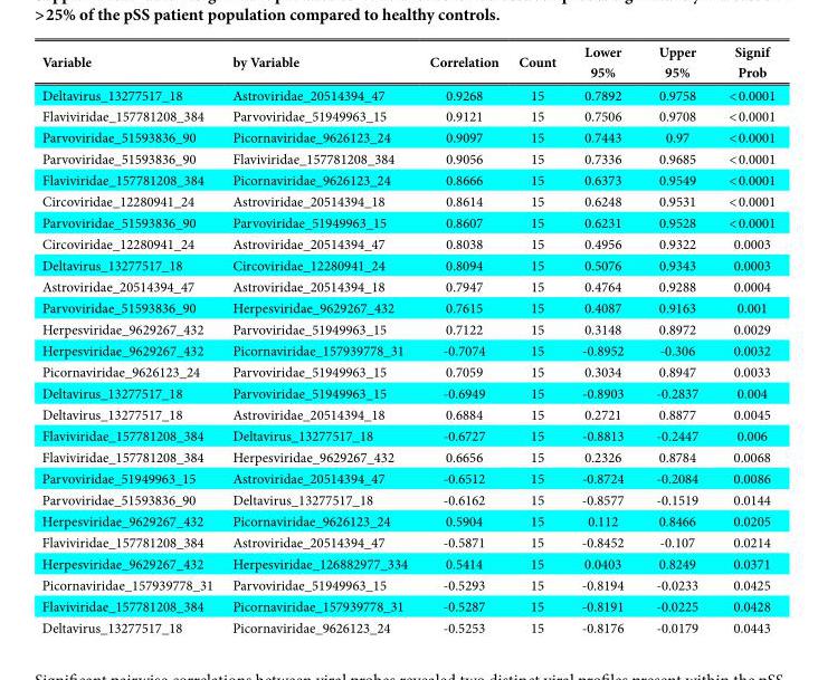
<table><thead><tr><td>Variable</td><td>by Variable</td><td>Correlation</td><td>Count</td><td>Lower 95%</td><td>Upper 95%</td><td>Signif Prob</td></tr></thead><tbody><tr><td>Deltavirus_13277517_18</td><td>Astroviridae_20514394_47</td><td>0.9268</td><td>15</td><td>0.7892</td><td>0.9758</td><td>&lt; 0.0001</td></tr><tr><td>Flaviviridae_157781208_384</td><td>Parvoviridae_51949963_15</td><td>0.9121</td><td>15</td><td>0.7506</td><td>0.9708</td><td>&lt; 0.0001</td></tr><tr><td>Parvoviridae_51593836_90</td><td>Picornaviridae_9626123_24</td><td>0.9097</td><td>15</td><td>0.7443</td><td>0.97</td><td>&lt; 0.0001</td></tr><tr><td>Parvoviridae_51593836_90</td><td>Flaviviridae_157781208_384</td><td>0.9056</td><td>15</td><td>0.7336</td><td>0.9685</td><td>&lt; 0.0001</td></tr><tr><td>Flaviviridae_157781208_384</td><td>Picornaviridae_9626123_24</td><td>0.8666</td><td>15</td><td>0.6373</td><td>0.9549</td><td>&lt; 0.0001</td></tr><tr><td>Circoviridae_12280941_24</td><td>Astroviridae_20514394_18</td><td>0.8614</td><td>15</td><td>0.6248</td><td>0.9531</td><td>&lt; 0.0001</td></tr><tr><td>Parvoviridae_51593836_90</td><td>Parvoviridae_51949963_15</td><td>0.8607</td><td>15</td><td>0.6231</td><td>0.9528</td><td>&lt; 0.0001</td></tr><tr><td>Circoviridae_12280941_24</td><td>Astroviridae_20514394_47</td><td>0.8038</td><td>15</td><td>0.4956</td><td>0.9322</td><td>0.0003</td></tr><tr><td>Deltavirus_13277517_18</td><td>Circoviridae_12280941_24</td><td>0.8094</td><td>15</td><td>0.5076</td><td>0.9343</td><td>0.0003</td></tr><tr><td>Astroviridae_20514394_47</td><td>Astroviridae_20514394_18</td><td>0.7947</td><td>15</td><td>0.4764</td><td>0.9288</td><td>0.0004</td></tr><tr><td>Parvoviridae_51593836_90</td><td>Herpesviridae_9629267_432</td><td>0.7615</td><td>15</td><td>0.4087</td><td>0.9163</td><td>0.001</td></tr><tr><td>Herpesviridae_9629267_432</td><td>Parvoviridae_51949963_15</td><td>0.7122</td><td>15</td><td>0.3148</td><td>0.8972</td><td>0.0029</td></tr><tr><td>Herpesviridae_9629267_432</td><td>Picornaviridae_157939778_31</td><td>‐0.7074</td><td>15</td><td>-0.8952</td><td>‐0.306</td><td>0.0032</td></tr><tr><td>Picornaviridae_9626123_24</td><td>Parvoviridae_51949963_15</td><td>0.7059</td><td>15</td><td>0.3034</td><td>0.8947</td><td>0.0033</td></tr><tr><td>Deltavirus_13277517_18</td><td>Parvoviridae_51949963_15</td><td>-0.6949</td><td>15</td><td>-0.8903</td><td>-0.2837</td><td>0.004</td></tr><tr><td>Deltavirus_13277517_18</td><td>Astroviridae_20514394_18</td><td>0.6884</td><td>15</td><td>0.2721</td><td>0.8877</td><td>0.0045</td></tr><tr><td>Flaviviridae_157781208_384</td><td>Deltavirus_13277517_18</td><td>-0.6727</td><td>15</td><td>-0.8813</td><td>‐0.2447</td><td>0.006</td></tr><tr><td>Flaviviridae_157781208_384</td><td>Herpesviridae_9629267_432</td><td>0.6656</td><td>15</td><td>0.2326</td><td>0.8784</td><td>0.0068</td></tr><tr><td>Parvoviridae_51949963_15</td><td>Astroviridae_20514394_47</td><td>-0.6512</td><td>15</td><td>-0.8724</td><td>-0.2084</td><td>0.0086</td></tr><tr><td>Parvoviridae_51593836_90</td><td>Deltavirus_13277517_18</td><td>-0.6162</td><td>15</td><td>-0.8577</td><td>‐0.1519</td><td>0.0144</td></tr><tr><td>Herpesviridae_9629267_432</td><td>Picornaviridae_9626123_24</td><td>0.5904</td><td>15</td><td>0.112</td><td>0.8466</td><td>0.0205</td></tr><tr><td>Flaviviridae_157781208_384</td><td>Astroviridae_20514394_47</td><td>-0.5871</td><td>15</td><td>-0.8452</td><td>-0.107</td><td>0.0214</td></tr><tr><td>Herpesviridae_9629267_432</td><td>Herpesviridae_126882977_334</td><td>0.5414</td><td>15</td><td>0.0403</td><td>0.8249</td><td>0.0371</td></tr><tr><td>Picornaviridae_157939778_31</td><td>Parvoviridae_51949963_15</td><td>-0.5293</td><td>15</td><td>-0.8194</td><td>-0.0233</td><td>0.0425</td></tr><tr><td>Flaviviridae_157781208_384</td><td>Picornaviridae_157939778_31</td><td>-0.5287</td><td>15</td><td>‐0.8191</td><td>‐0.0225</td><td>0.0428</td></tr><tr><td>Deltavirus_13277517_18</td><td>Picornaviridae_9626123_24</td><td>-0.5253</td><td>15</td><td>-0.8176</td><td>-0.0179</td><td>0.0443</td></tr></tbody></table>